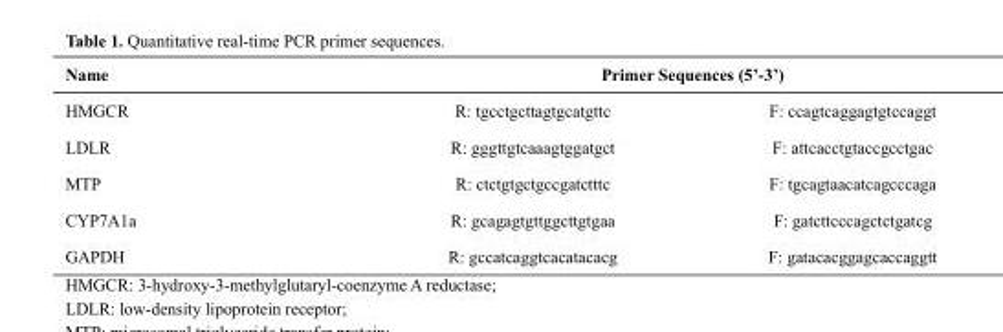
<table><thead><tr><td rowspan="2">Name HMGCR</td><td colspan="2">Primer Sequences (5’-3’)</td></tr><tr><td>R: tgcctgcttagtgcatgttc</td><td>F: ccagtcaggagtgtccaggt</td></tr></thead><tbody><tr><td>LDLR</td><td>R: gggttgtcaaagtggatgct</td><td>F: attcacctgtaccgcctgac</td></tr><tr><td>MTP</td><td>R: ctctgtgctgccgatctttc</td><td>F: tgcagtaacatcagcccaga</td></tr><tr><td>CYP7A1a</td><td>R: gcagagtgttggcttgtgaa</td><td>F: gatcttcccagctctgatcg</td></tr><tr><td>GAPDH</td><td>R: gccatcaggtcacatacacg</td><td>F: gatacacggagcaccaggtt</td></tr></tbody></table>